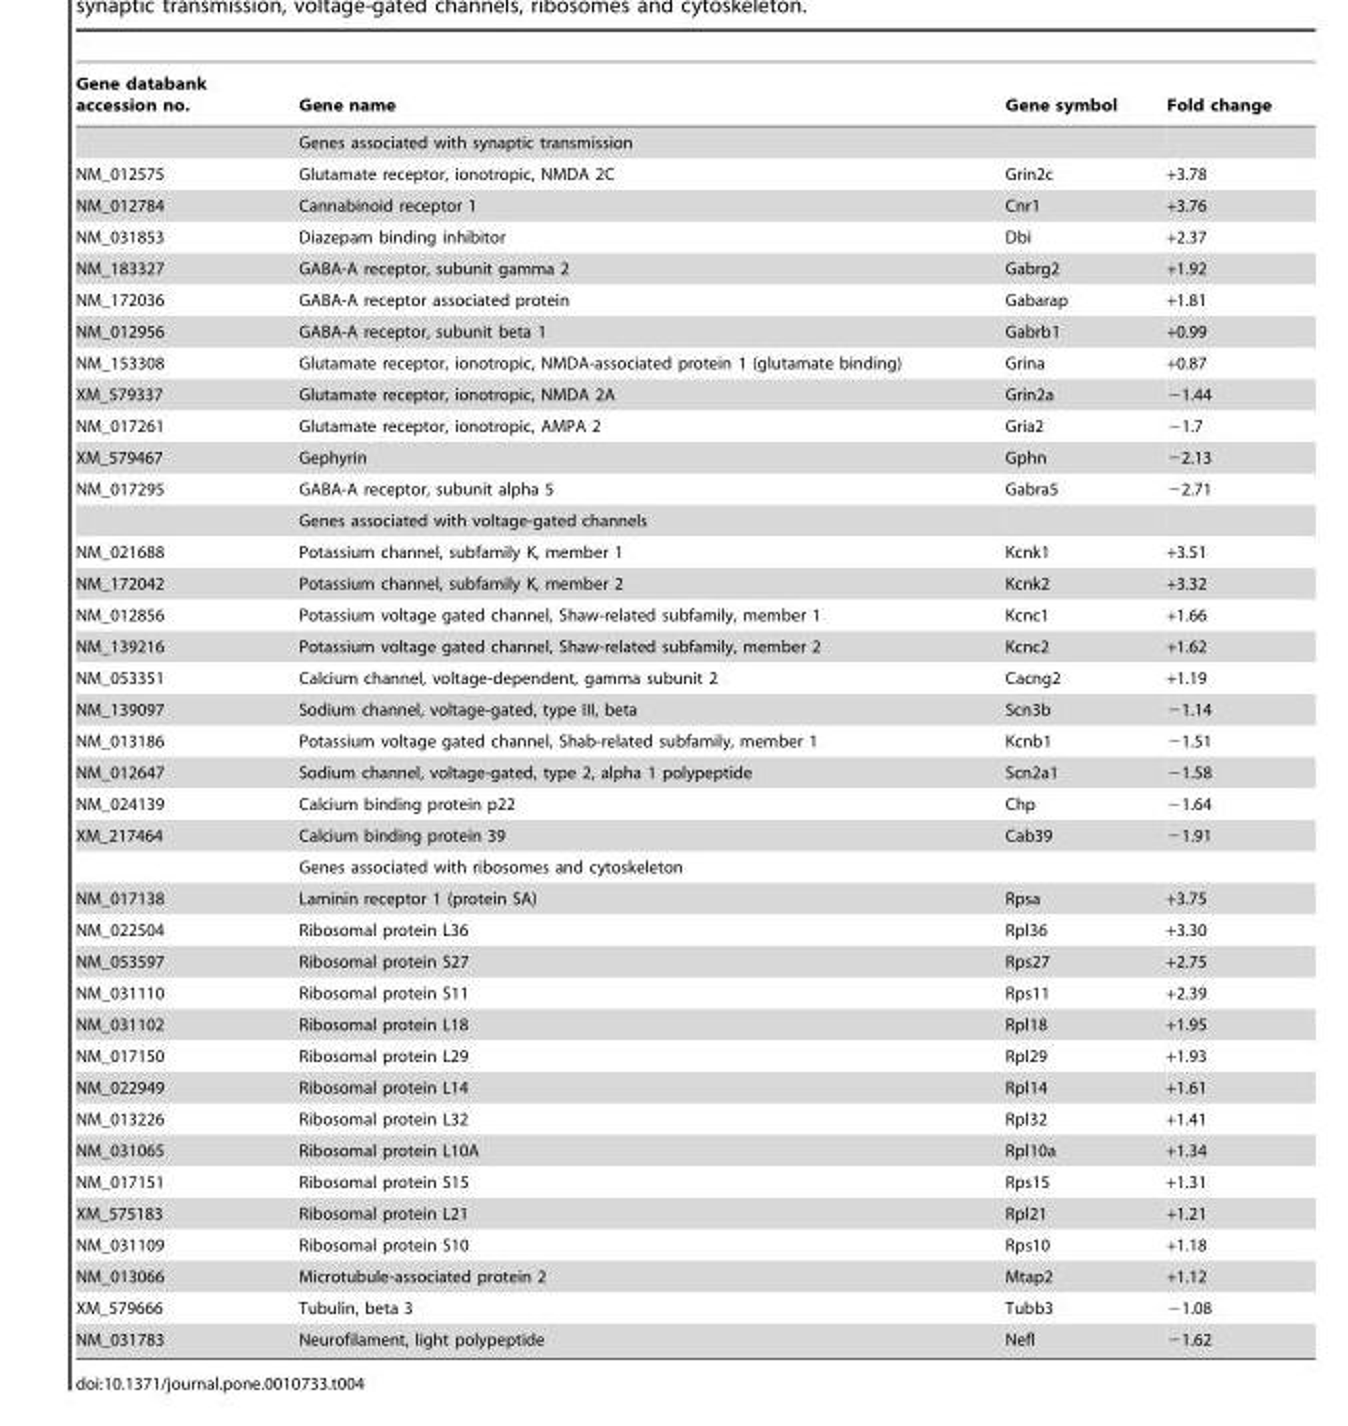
<table><thead><tr><td>Gene databank accession no.</td><td>Gene name</td><td>Gene symbol</td><td>Fold change</td></tr></thead><tbody><tr><td></td><td>Genes associated with synaptic transmission</td><td></td><td></td></tr><tr><td>NM_012575</td><td>Glutamate receptor, ionotropic, NMDA 2C</td><td>Grin2c</td><td>+3.78</td></tr><tr><td>NM_012784</td><td>Cannabinoid receptor 1</td><td>Cnr1</td><td>+3.76</td></tr><tr><td>NM_031853</td><td>Diazepam binding inhibitor</td><td>Dbi</td><td>+2.37</td></tr><tr><td>NM_183327</td><td>GABA-A receptor, subunit gamma 2</td><td>Gabrg2</td><td>+1.92</td></tr><tr><td>NM_172036</td><td>GABA-A receptor associated protein</td><td>Gabarap</td><td>+1.81</td></tr><tr><td>NM_012956</td><td>GABA-A receptor, subunit beta 1</td><td>Gabrb1</td><td>+0.99</td></tr><tr><td>NM_153308</td><td>Glutamate receptor, ionotropic, NMDA-associated protein 1 (glutamate binding)</td><td>Grina</td><td>+0.87</td></tr><tr><td>XM_579337</td><td>Glutamate receptor, ionotropic, NMDA 2A</td><td>Grin2a</td><td>−1.44</td></tr><tr><td>NM_017261</td><td>Glutamate receptor, ionotropic, AMPA 2</td><td>Gria2</td><td>−1.7</td></tr><tr><td>XM_579467</td><td>Gephyrin</td><td>Gphn</td><td>−2.13</td></tr><tr><td rowspan="2">NM_017295</td><td>GABA-A receptor, subunit alpha 5</td><td>Gabra5</td><td>−2.71</td></tr><tr><td>Genes associated with voltage-gated channels</td><td></td><td></td></tr><tr><td>NM_021688</td><td>Potassium channel, subfamily K, member 1</td><td>Kcnk1</td><td>+3.51</td></tr><tr><td>NM_172042</td><td>Potassium channel, subfamily K, member 2</td><td>Kcnk2</td><td>+3.32</td></tr><tr><td>NM_012856</td><td>Potassium voltage gated channel, Shaw-related subfamily, member 1</td><td>Kcnc1</td><td>+1.66</td></tr><tr><td>NM_139216</td><td>Potassium voltage gated channel, Shaw-related subfamily, member 2</td><td>Kcnc2</td><td>+1.62</td></tr><tr><td>NM_053351</td><td>Calcium channel, voltage-dependent, gamma subunit 2</td><td>Cacng2</td><td>+1.19</td></tr><tr><td>NM_139097</td><td>Sodium channel, voltage-gated, type III, beta</td><td>Scn3b</td><td>−1.14</td></tr><tr><td>NM_013186</td><td>Potassium voltage gated channel, Shab-related subfamily, member 1</td><td>Kcnb1</td><td>−1.51</td></tr><tr><td>NM_012647</td><td>Sodium channel, voltage-gated, type 2, alpha 1 polypeptide</td><td>Scn2a1</td><td>−1.58</td></tr><tr><td>NM_024139</td><td>Calcium binding protein p22</td><td>Chp</td><td>−1.64</td></tr><tr><td rowspan="2">XM_217464</td><td>Calcium binding protein 39</td><td>Cab39</td><td>−1.91</td></tr><tr><td>Genes associated with ribosomes and cytoskeleton</td><td></td><td></td></tr><tr><td>NM_017138</td><td>Laminin receptor 1 (protein SA)</td><td>Rpsa</td><td>+3.75</td></tr><tr><td>NM_022504</td><td>Ribosomal protein L36</td><td>Rpl36</td><td>+3.30</td></tr><tr><td>NM_053597</td><td>Ribosomal protein S27</td><td>Rps27</td><td>+2.75</td></tr><tr><td>NM_031110</td><td>Ribosomal protein S11</td><td>Rps11</td><td>+2.39</td></tr><tr><td>NM_031102</td><td>Ribosomal protein L18</td><td>Rpl18</td><td>+1.95</td></tr><tr><td>NM_017150</td><td>Ribosomal protein L29</td><td>Rpl29</td><td>+1.93</td></tr><tr><td>NM_022949</td><td>Ribosomal protein L14</td><td>Rpl14</td><td>+1.61</td></tr><tr><td>NM_013226</td><td>Ribosomal protein L32</td><td>Rpl32</td><td>+1.41</td></tr><tr><td>NM_031065</td><td>Ribosomal protein L10A</td><td>Rpl10a</td><td>+1.34</td></tr><tr><td>NM_017151</td><td>Ribosomal protein S15</td><td>Rps15</td><td>+1.31</td></tr><tr><td>XM_575183</td><td>Ribosomal protein L21</td><td>Rpl21</td><td>+1.21</td></tr><tr><td>NM_031109</td><td>Ribosomal protein S10</td><td>Rps10</td><td>+1.18</td></tr><tr><td>NM_013066</td><td>Microtubule-associated protein 2</td><td>Mtap2</td><td>+1.12</td></tr><tr><td>XM_579666</td><td>Tubulin, beta 3</td><td>Tubb3</td><td>−1.08</td></tr><tr><td>NM_031783</td><td>Neurofilament, light polypeptide</td><td>Nefl</td><td>−1.62</td></tr></tbody></table>